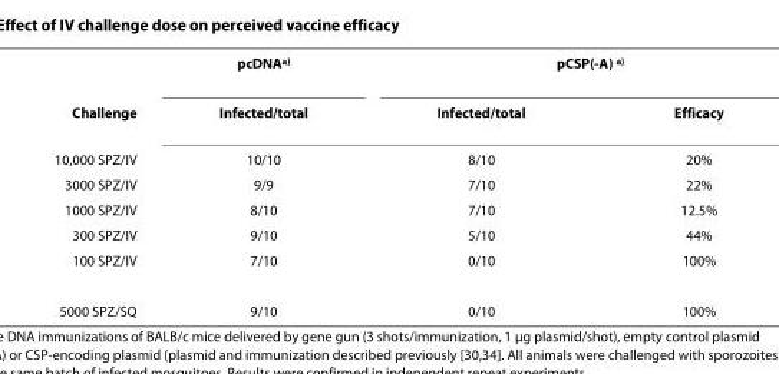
<table><thead><tr><td rowspan="2">Challenge</td><td rowspan="2">pcDNA<sup>a)</sup> Infected/total</td><td colspan="2">pCSP(-A) <sup>a)</sup></td></tr><tr><td>Infected/total</td><td>Efficacy</td></tr></thead><tbody><tr><td>10,000 SPZ/IV</td><td>10/10</td><td>8/10</td><td>20%</td></tr><tr><td>3000 SPZ/IV</td><td>9/9</td><td>7/10</td><td>22%</td></tr><tr><td>1000 SPZ/IV</td><td>8/10</td><td>7/10</td><td>12.5%</td></tr><tr><td>300 SPZ/IV</td><td>9/10</td><td>5/10</td><td>44%</td></tr><tr><td>100 SPZ/IV</td><td>7/10</td><td>0/10</td><td>100%</td></tr><tr><td>5000 SPZ/SQ</td><td>9/10</td><td>0/10</td><td>100%</td></tr></tbody></table>